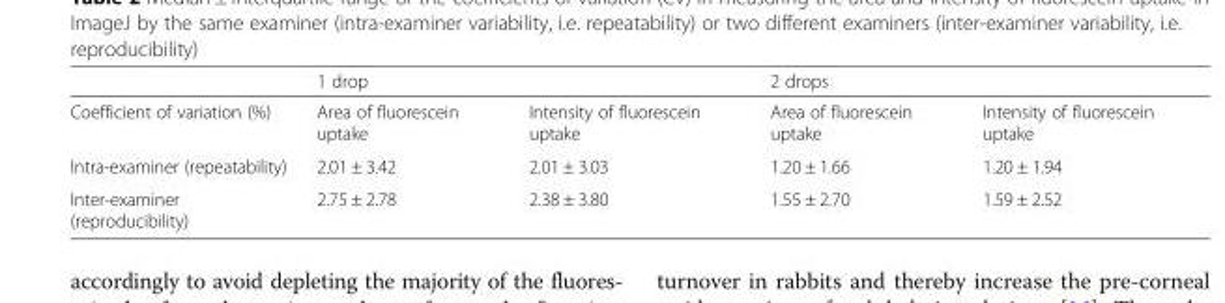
<table><thead><tr><td rowspan="2">Coefficient of variation (%)</td><td colspan="2">1 drop</td><td colspan="2">2 drops</td></tr><tr><td>Area of fluorescein uptake</td><td>Intensity of fluorescein uptake</td><td>Area of fluorescein uptake</td><td>Intensity of fluorescein uptake</td></tr></thead><tbody><tr><td>Intra-examiner (repeatability)</td><td>2.01 ± 3.42</td><td>2.01 ± 3.03</td><td>1.20 ± 1.66</td><td>1.20 ± 1.94</td></tr><tr><td>Inter-examiner (reproducibility)</td><td>2.75 ± 2.78</td><td>2.38 ± 3.80</td><td>1.55 ± 2.70</td><td>1.59 ± 2.52</td></tr></tbody></table>